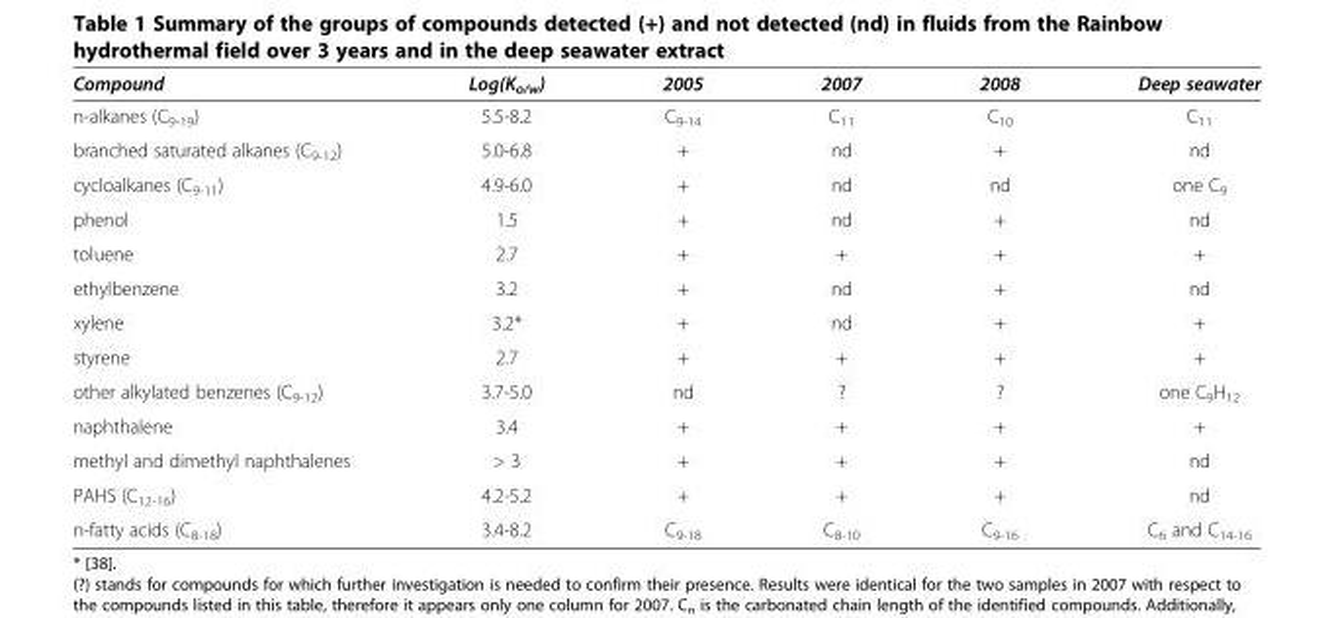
<table><thead><tr><td>Compound</td><td>Log(K<sub>o/w</sub>)</td><td>2005</td><td>2007</td><td>2008</td><td>Deep seawater</td></tr></thead><tbody><tr><td>n-alkanes (C<sub>9-19</sub>)</td><td>5.5-8.2</td><td>C<sub>9-14</sub></td><td>C<sub>11</sub></td><td>C<sub>10</sub></td><td>C<sub>11</sub></td></tr><tr><td>branched saturated alkanes (C<sub>9-12</sub>)</td><td>5.0-6.8</td><td>+</td><td>nd</td><td>+</td><td>nd</td></tr><tr><td>cycloalkanes (C<sub>9-11</sub>)</td><td>4.9-6.0</td><td>+</td><td>nd</td><td>nd</td><td>one C<sub>9</sub></td></tr><tr><td>phenol</td><td>1.5</td><td>+</td><td>nd</td><td>+</td><td>nd</td></tr><tr><td>toluene</td><td>2.7</td><td>+</td><td>+</td><td>+</td><td>+</td></tr><tr><td>ethylbenzene</td><td>3.2</td><td>+</td><td>nd</td><td>+</td><td>nd</td></tr><tr><td>xylene</td><td>3.2*</td><td>+</td><td>nd</td><td>+</td><td>+</td></tr><tr><td>styrene</td><td>2.7</td><td>+</td><td>+</td><td>+</td><td>+</td></tr><tr><td>other alkylated benzenes (C<sub>9-12</sub>)</td><td>3.7-5.0</td><td>nd</td><td>?</td><td>?</td><td>one C<sub>9</sub>H<sub>12</sub></td></tr><tr><td>naphthalene</td><td>3.4</td><td>+</td><td>+</td><td>+</td><td>+</td></tr><tr><td>methyl and dimethyl naphthalenes</td><td>&gt; 3</td><td>+</td><td>+</td><td>+</td><td>nd</td></tr><tr><td>PAHS (C<sub>12-16</sub>)</td><td>4.2-5.2</td><td>+</td><td>+</td><td>+</td><td>nd</td></tr><tr><td>n-fatty acids (C<sub>8-18</sub>)</td><td>3.4-8.2</td><td>C<sub>9-18</sub></td><td>C<sub>8-10</sub></td><td>C<sub>9-16</sub></td><td>C<sub>6</sub> and C<sub>14-16</sub></td></tr></tbody></table>